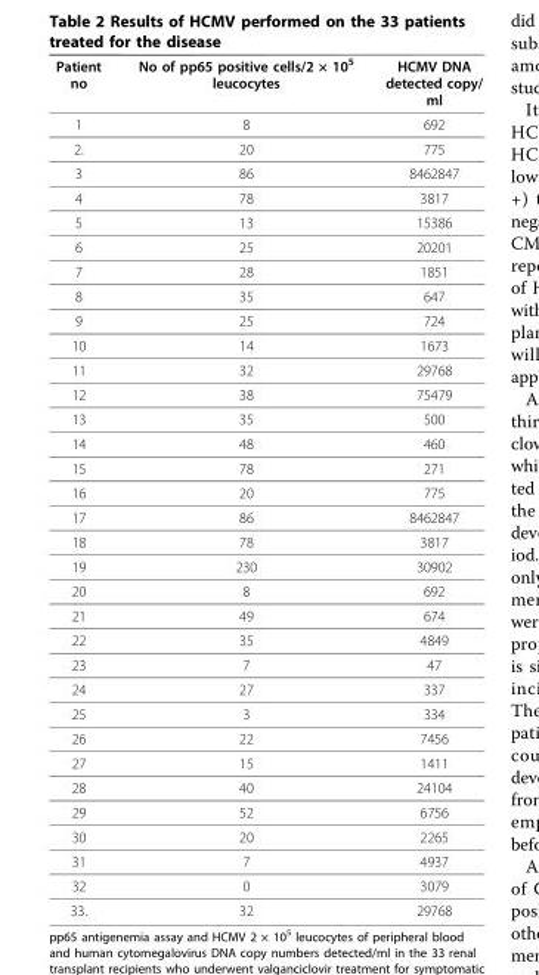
<table><thead><tr><td>Patient no</td><td>No of pp65 positive cells/2 × 10<sup>5</sup> leucocytes</td><td>HCMV DNA detected copy/ ml</td></tr></thead><tbody><tr><td>1</td><td>8</td><td>692</td></tr><tr><td>2.</td><td>20</td><td>775</td></tr><tr><td>3</td><td>86</td><td>8462847</td></tr><tr><td>4</td><td>78</td><td>3817</td></tr><tr><td>5</td><td>13</td><td>15386</td></tr><tr><td>6</td><td>25</td><td>20201</td></tr><tr><td>7</td><td>28</td><td>1851</td></tr><tr><td>8</td><td>35</td><td>647</td></tr><tr><td>9</td><td>25</td><td>724</td></tr><tr><td>10</td><td>14</td><td>1673</td></tr><tr><td>11</td><td>32</td><td>29768</td></tr><tr><td>12</td><td>38</td><td>75479</td></tr><tr><td>13</td><td>35</td><td>500</td></tr><tr><td>14</td><td>48</td><td>460</td></tr><tr><td>15</td><td>78</td><td>271</td></tr><tr><td>16</td><td>20</td><td>775</td></tr><tr><td>17</td><td>86</td><td>8462847</td></tr><tr><td>18</td><td>78</td><td>3817</td></tr><tr><td>19</td><td>230</td><td>30902</td></tr><tr><td>20</td><td>8</td><td>692</td></tr><tr><td>21</td><td>49</td><td>674</td></tr><tr><td>22</td><td>35</td><td>4849</td></tr><tr><td>23</td><td>7</td><td>47</td></tr><tr><td>24</td><td>27</td><td>337</td></tr><tr><td>25</td><td>3</td><td>334</td></tr><tr><td>26</td><td>22</td><td>7456</td></tr><tr><td>27</td><td>15</td><td>1411</td></tr><tr><td>28</td><td>40</td><td>24104</td></tr><tr><td>29</td><td>52</td><td>6756</td></tr><tr><td>30</td><td>20</td><td>2265</td></tr><tr><td>31</td><td>7</td><td>4937</td></tr><tr><td>32</td><td>0</td><td>3079</td></tr><tr><td>33.</td><td>32</td><td>29768</td></tr></tbody></table>